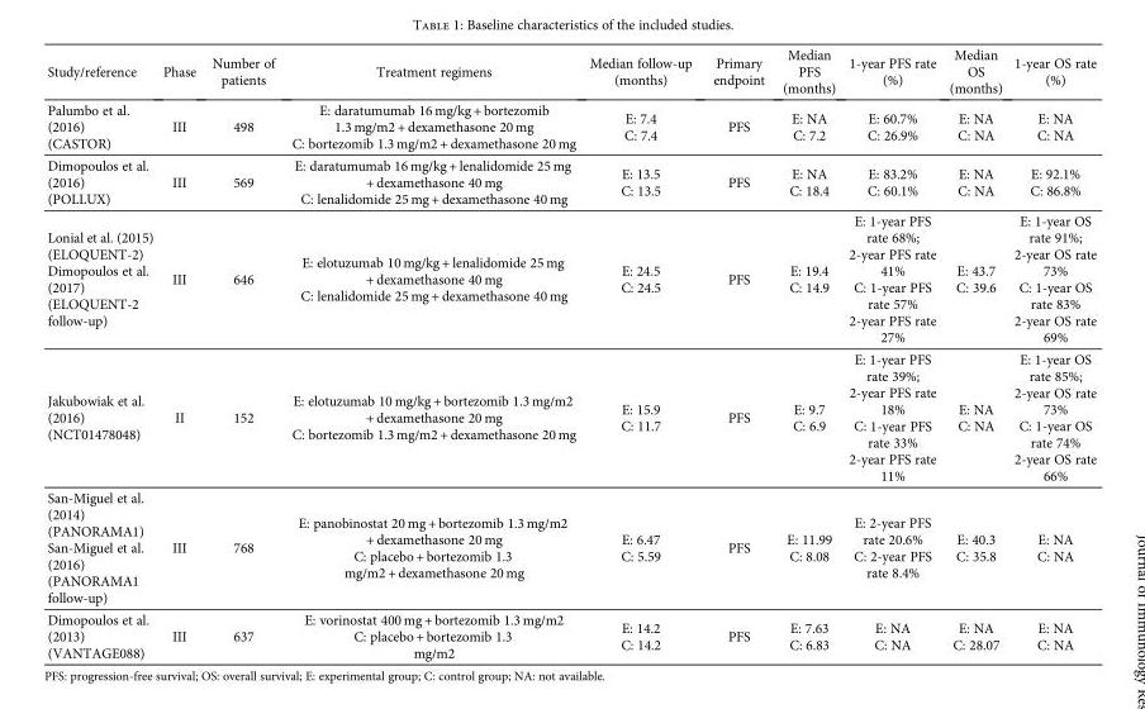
<table><thead><tr><td>Study/reference</td><td>Phase</td><td>Number of patients</td><td>Treatment regimens</td><td>Median follow-up (months)</td><td>Primary endpoint</td><td>Median PFS (months)</td><td>1-year PFS rate (%)</td><td>Median OS (months)</td><td>1-year OS rate (%)</td></tr></thead><tbody><tr><td>Palumbo et al. (2016) (CASTOR)</td><td>III</td><td>498</td><td>E: daratumumab 16 mg/kg + bortezomib 1.3 mg/m2 + dexamethasone 20 mg C: bortezomib 1.3 mg/m2 + dexamethasone 20 mg</td><td>E: 7.4 C: 7.4</td><td>PFS</td><td>E: NA C: 7.2</td><td>E: 60.7% C: 26.9%</td><td>E: NA C: NA</td><td>E: NA C: NA</td></tr><tr><td>Dimopoulos et al. (2016) (POLLUX)</td><td>III</td><td>569</td><td>E: daratumumab 16 mg/kg + lenalidomide 25 mg + dexamethasone 40 mg C: lenalidomide 25 mg + dexamethasone 40 mg</td><td>E: 13.5 C: 13.5</td><td>PFS</td><td>E: NA C: 18.4</td><td>E: 83.2% C: 60.1%</td><td>E: NA C: NA</td><td>E: 92.1% C: 86.8%</td></tr><tr><td>Lonial et al. (2015) (ELOQUENT-2) Dimopoulos et al. (2017) (ELOQUENT-2 follow-up)</td><td>III</td><td>646</td><td>E: elotuzumab 10 mg/kg + lenalidomide 25 mg + dexamethasone 40 mg C: lenalidomide 25 mg + dexamethasone 40 mg</td><td>E: 24.5 C: 24.5</td><td>PFS</td><td>E: 19.4 C: 14.9</td><td>E: 1-year PFS rate 68%; 2-year PFS rate 41% C: 1-year PFS rate 57% 2-year PFS rate 27%</td><td>E: 43.7 C: 39.6</td><td>E: 1-year OS rate 91%; 2-year OS rate 73% C: 1-year OS rate 83% 2-year OS rate 69%</td></tr><tr><td>Jakubowiak et al. (2016) (NCT01478048)</td><td>II</td><td>152</td><td>E: elotuzumab 10 mg/kg + bortezomib 1.3 mg/m2 + dexamethasone 20 mg C: bortezomib 1.3 mg/m2 + dexamethasone 20 mg</td><td>E: 15.9 C: 11.7</td><td>PFS</td><td>E: 9.7 C: 6.9</td><td>E: 1-year PFS rate 39%; 2-year PFS rate 18% C: 1-year PFS rate 33% 2-year PFS rate 11%</td><td>E: NA C: NA</td><td>E: 1-year OS rate 85%; 2-year OS rate 73% C: 1-year OS rate 74% 2-year OS rate 66%</td></tr><tr><td>San-Miguel et al. (2014) (PANORAMA1) San-Miguel et al. (2016) (PANORAMA1 follow-up)</td><td>III</td><td>768</td><td>E: panobinostat 20 mg + bortezomib 1.3 mg/m2 + dexamethasone 20 mg C: placebo + bortezomib 1.3 mg/m2 + dexamethasone 20 mg</td><td>E: 6.47 C: 5.59</td><td>PFS</td><td>E: 11.99 C: 8.08</td><td>E: 2-year PFS rate 20.6% C: 2-year PFS rate 8.4%</td><td>E: 40.3 C: 35.8</td><td>E: NA C: NA</td></tr><tr><td>Dimopoulos et al. (2013) (VANTAGE088)</td><td>III</td><td>637</td><td>E: vorinostat 400 mg + bortezomib 1.3 mg/m2 C: placebo + bortezomib 1.3 mg/m2</td><td>E: 14.2 C: 14.2</td><td>PFS</td><td>E: 7.63 C: 6.83</td><td>E: NA C: NA</td><td>E: NA C: 28.07</td><td>E: NA C: NA</td></tr></tbody></table>